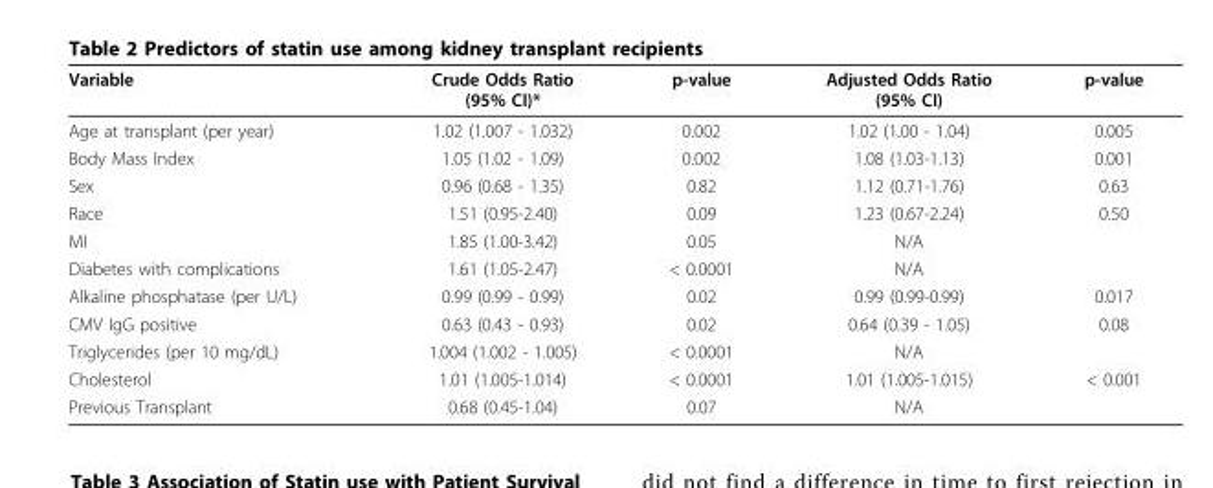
<table><thead><tr><td>Variable</td><td>Crude Odds Ratio (95% CI)*</td><td>p-value</td><td>Adjusted Odds Ratio (95% CI)</td><td>p-value</td></tr></thead><tbody><tr><td>Age at transplant (per year)</td><td>1.02 (1.007 - 1.032)</td><td>0.002</td><td>1.02 (1.00 - 1.04)</td><td>0.005</td></tr><tr><td>Body Mass Index</td><td>1.05 (1.02 - 1.09)</td><td>0.002</td><td>1.08 (1.03-1.13)</td><td>0.001</td></tr><tr><td>Sex</td><td>0.96 (0.68 - 1.35)</td><td>0.82</td><td>1.12 (0.71-1.76)</td><td>0.63</td></tr><tr><td>Race</td><td>1.51 (0.95-2.40)</td><td>0.09</td><td>1.23 (0.67-2.24)</td><td>0.50</td></tr><tr><td>MI</td><td>1.85 (1.00-3.42)</td><td>0.05</td><td>N/A</td><td></td></tr><tr><td>Diabetes with complications</td><td>1.61 (1.05-2.47)</td><td>&lt; 0.0001</td><td>N/A</td><td></td></tr><tr><td>Alkaline phosphatase (per U/L)</td><td>0.99 (0.99 - 0.99)</td><td>0.02</td><td>0.99 (0.99-0.99)</td><td>0.017</td></tr><tr><td>CMV IgG positive</td><td>0.63 (0.43 - 0.93)</td><td>0.02</td><td>0.64 (0.39 - 1.05)</td><td>0.08</td></tr><tr><td>Triglycerides (per 10 mg/dL)</td><td>1.004 (1.002 - 1.005)</td><td>&lt; 0.0001</td><td>N/A</td><td></td></tr><tr><td>Cholesterol</td><td>1.01 (1.005-1.014)</td><td>&lt; 0.0001</td><td>1.01 (1.005-1.015)</td><td>&lt; 0.001</td></tr><tr><td>Previous Transplant</td><td>0.68 (0.45-1.04)</td><td>0.07</td><td>N/A</td><td></td></tr></tbody></table>